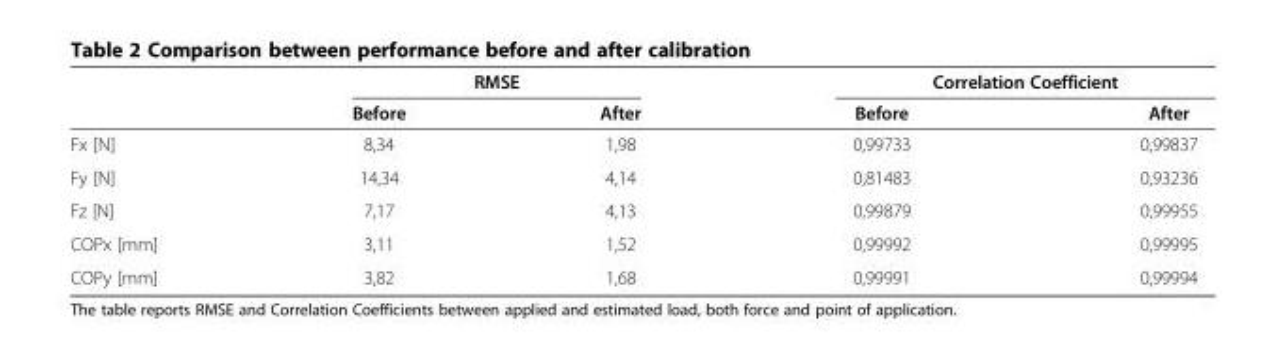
<table><thead><tr><td rowspan="2"></td><td colspan="2">RMSE</td><td colspan="2">Correlation Coefficient</td></tr><tr><td>Before</td><td>After</td><td>Before</td><td>After</td></tr></thead><tbody><tr><td>Fx [N]</td><td>8,34</td><td>1,98</td><td>0,99733</td><td>0,99837</td></tr><tr><td>Fy [N]</td><td>14,34</td><td>4,14</td><td>0,81483</td><td>0,93236</td></tr><tr><td>Fz [N]</td><td>7,17</td><td>4,13</td><td>0,99879</td><td>0,99955</td></tr><tr><td>COPx [mm]</td><td>3,11</td><td>1,52</td><td>0,99992</td><td>0,99995</td></tr><tr><td>COPy [mm]</td><td>3,82</td><td>1,68</td><td>0,99991</td><td>0,99994</td></tr></tbody></table>